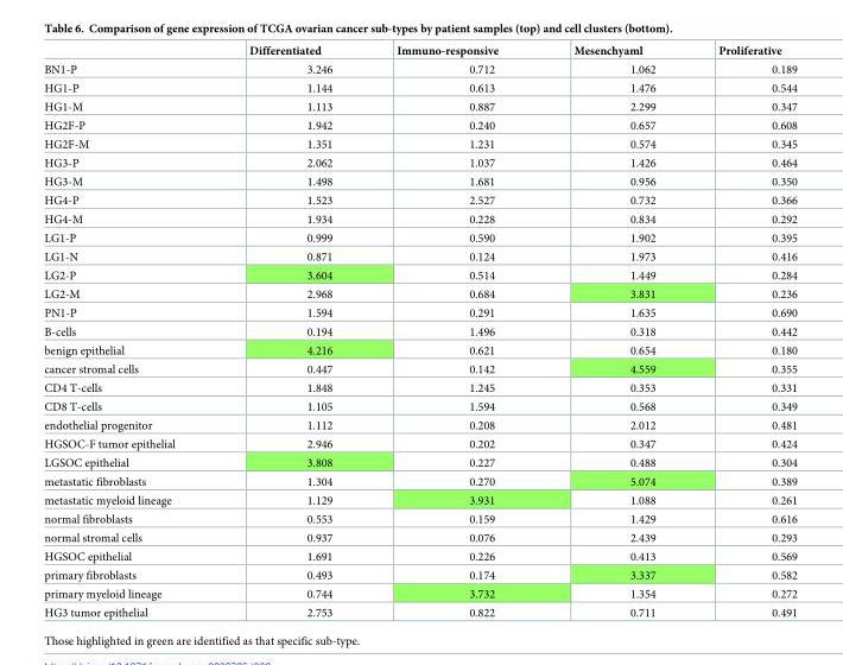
<table><thead><tr><td></td><td>Differentiated</td><td>Immuno-responsive</td><td>Mesenchyaml</td><td>Proliferative</td></tr></thead><tbody><tr><td>BN1-P</td><td>3.246</td><td>0.712</td><td>1.062</td><td>0.189</td></tr><tr><td>HG1-P</td><td>1.144</td><td>0.613</td><td>1.476</td><td>0.544</td></tr><tr><td>HG1-M</td><td>1.113</td><td>0.887</td><td>2.299</td><td>0.347</td></tr><tr><td>HG2F-P</td><td>1.942</td><td>0.240</td><td>0.657</td><td>0.608</td></tr><tr><td>HG2F-M</td><td>1.351</td><td>1.231</td><td>0.574</td><td>0.345</td></tr><tr><td>HG3-P</td><td>2.062</td><td>1.037</td><td>1.426</td><td>0.464</td></tr><tr><td>HG3-M</td><td>1.498</td><td>1.681</td><td>0.956</td><td>0.350</td></tr><tr><td>HG4-P</td><td>1.523</td><td>2.527</td><td>0.732</td><td>0.366</td></tr><tr><td>HG4-M</td><td>1.934</td><td>0.228</td><td>0.834</td><td>0.292</td></tr><tr><td>LG1-P</td><td>0.999</td><td>0.590</td><td>1.902</td><td>0.395</td></tr><tr><td>LG1-N</td><td>0.871</td><td>0.124</td><td>1.973</td><td>0.416</td></tr><tr><td>LG2-P</td><td>3.604</td><td>0.514</td><td>1.449</td><td>0.284</td></tr><tr><td>LG2-M</td><td>2.968</td><td>0.684</td><td>3.831</td><td>0.236</td></tr><tr><td>PN1-P</td><td>1.594</td><td>0.291</td><td>1.635</td><td>0.690</td></tr><tr><td>B-cells</td><td>0.194</td><td>1.496</td><td>0.318</td><td>0.442</td></tr><tr><td>benign epithelial</td><td>4.216</td><td>0.621</td><td>0.654</td><td>0.180</td></tr><tr><td>cancer stromal cells</td><td>0.447</td><td>0.142</td><td>4.559</td><td>0.355</td></tr><tr><td>CD4 T-cells</td><td>1.848</td><td>1.245</td><td>0.353</td><td>0.331</td></tr><tr><td>CD8 T-cells</td><td>1.105</td><td>1.594</td><td>0.568</td><td>0.349</td></tr><tr><td>endothelial progenitor</td><td>1.112</td><td>0.208</td><td>2.012</td><td>0.481</td></tr><tr><td>HGSOC-F tumor epithelial</td><td>2.946</td><td>0.202</td><td>0.347</td><td>0.424</td></tr><tr><td>LGSOC epithelial</td><td>3.808</td><td>0.227</td><td>0.488</td><td>0.304</td></tr><tr><td>metastatic fibroblasts</td><td>1.304</td><td>0.270</td><td>5.074</td><td>0.389</td></tr><tr><td>metastatic myeloid lineage</td><td>1.129</td><td>3.931</td><td>1.088</td><td>0.261</td></tr><tr><td>normal fibroblasts</td><td>0.553</td><td>0.159</td><td>1.429</td><td>0.616</td></tr><tr><td>normal stromal cells</td><td>0.937</td><td>0.076</td><td>2.439</td><td>0.293</td></tr><tr><td>HGSOC epithelial</td><td>1.691</td><td>0.226</td><td>0.413</td><td>0.569</td></tr><tr><td>primary fibroblasts</td><td>0.493</td><td>0.174</td><td>3.337</td><td>0.582</td></tr><tr><td>primary myeloid lineage</td><td>0.744</td><td>3.732</td><td>1.354</td><td>0.272</td></tr><tr><td>HG3 tumor epithelial</td><td>2.753</td><td>0.822</td><td>0.711</td><td>0.491</td></tr></tbody></table>